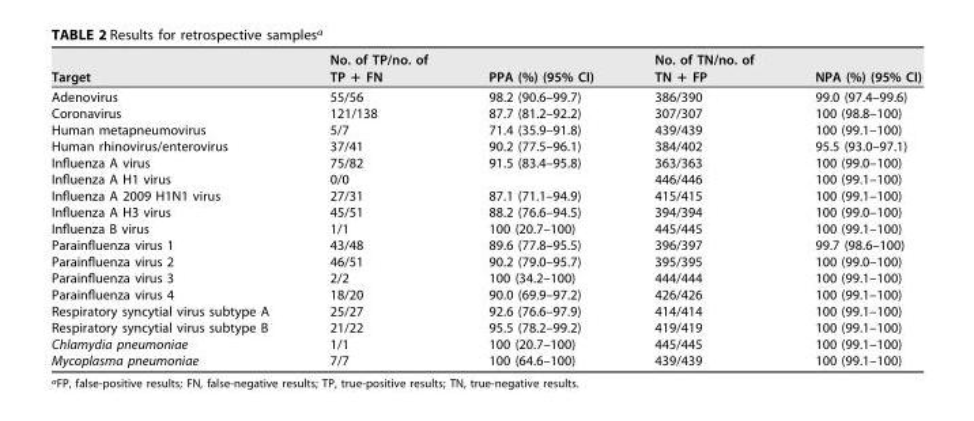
<table><thead><tr><td>Target</td><td>No. of TP/no. of TP + FN</td><td>PPA (%) (95% CI)</td><td>No. of TN/no. of TN + FP</td><td>NPA (%) (95% CI)</td></tr></thead><tbody><tr><td>Adenovirus</td><td>55/56</td><td>98.2 (90.6–99.7)</td><td>386/390</td><td>99.0 (97.4–99.6)</td></tr><tr><td>Coronavirus</td><td>121/138</td><td>87.7 (81.2–92.2)</td><td>307/307</td><td>100 (98.8–100)</td></tr><tr><td>Human metapneumovirus</td><td>5/7</td><td>71.4 (35.9–91.8)</td><td>439/439</td><td>100 (99.1–100)</td></tr><tr><td>Human rhinovirus/enterovirus</td><td>37/41</td><td>90.2 (77.5–96.1)</td><td>384/402</td><td>95.5 (93.0–97.1)</td></tr><tr><td>Influenza A virus</td><td>75/82</td><td>91.5 (83.4–95.8)</td><td>363/363</td><td>100 (99.0–100)</td></tr><tr><td>Influenza A H1 virus</td><td>0/0</td><td></td><td>446/446</td><td>100 (99.1–100)</td></tr><tr><td>Influenza A 2009 H1N1 virus</td><td>27/31</td><td>87.1 (71.1–94.9)</td><td>415/415</td><td>100 (99.1–100)</td></tr><tr><td>Influenza A H3 virus</td><td>45/51</td><td>88.2 (76.6–94.5)</td><td>394/394</td><td>100 (99.0–100)</td></tr><tr><td>Influenza B virus</td><td>1/1</td><td>100 (20.7–100)</td><td>445/445</td><td>100 (99.1–100)</td></tr><tr><td>Parainfluenza virus 1</td><td>43/48</td><td>89.6 (77.8–95.5)</td><td>396/397</td><td>99.7 (98.6–100)</td></tr><tr><td>Parainfluenza virus 2</td><td>46/51</td><td>90.2 (79.0–95.7)</td><td>395/395</td><td>100 (99.0–100)</td></tr><tr><td>Parainfluenza virus 3</td><td>2/2</td><td>100 (34.2–100)</td><td>444/444</td><td>100 (99.1–100)</td></tr><tr><td>Parainfluenza virus 4</td><td>18/20</td><td>90.0 (69.9–97.2)</td><td>426/426</td><td>100 (99.1–100)</td></tr><tr><td>Respiratory syncytial virus subtype A</td><td>25/27</td><td>92.6 (76.6–97.9)</td><td>414/414</td><td>100 (99.1–100)</td></tr><tr><td>Respiratory syncytial virus subtype B</td><td>21/22</td><td>95.5 (78.2–99.2)</td><td>419/419</td><td>100 (99.1–100)</td></tr><tr><td>Chlamydia pneumoniae</td><td>1/1</td><td>100 (20.7–100)</td><td>445/445</td><td>100 (99.1–100)</td></tr><tr><td>Mycoplasma pneumoniae</td><td>7/7</td><td>100 (64.6–100)</td><td>439/439</td><td>100 (99.1–100)</td></tr></tbody></table>